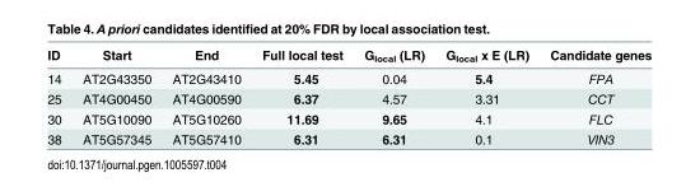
<table><thead><tr><td>ID</td><td>Start</td><td>End</td><td>Full local test</td><td>G<sub>local</sub> (LR)</td><td>G<sub>local</sub> x E (LR)</td><td>Candidate genes</td></tr></thead><tbody><tr><td>14</td><td>AT2G43350</td><td>AT2G43410</td><td>5.45</td><td>0.04</td><td>5.4</td><td>FPA</td></tr><tr><td>25</td><td>AT4G00450</td><td>AT4G00590</td><td>6.37</td><td>4.57</td><td>3.31</td><td>CCT</td></tr><tr><td>30</td><td>AT5G10090</td><td>AT5G10260</td><td>11.69</td><td>9.65</td><td>4.1</td><td>FLC</td></tr><tr><td>38</td><td>AT5G57345</td><td>AT5G57410</td><td>6.31</td><td>6.31</td><td>0.1</td><td>VIN3</td></tr></tbody></table>